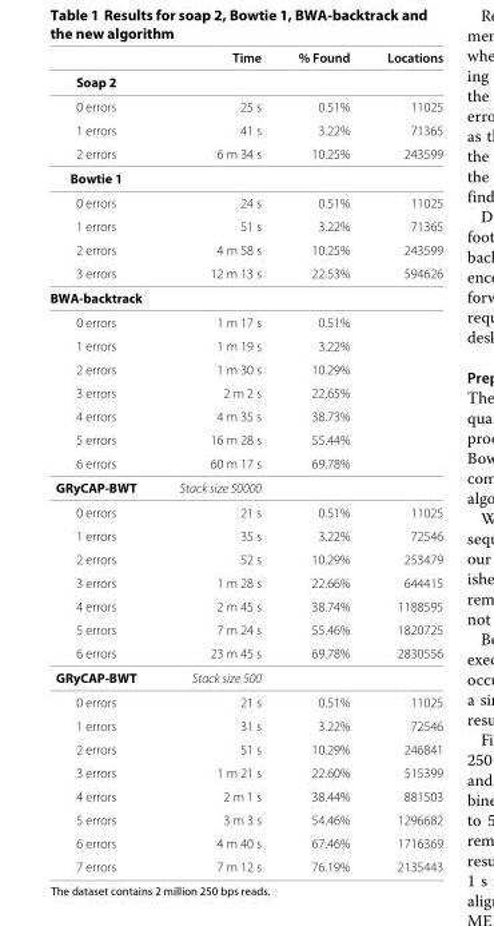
<table><thead><tr><td></td><td>Time</td><td>% Found</td><td>Locations</td></tr></thead><tbody><tr><td colspan="4">Soap 2</td></tr><tr><td>0 errors</td><td>25 s</td><td>0.51%</td><td>11025</td></tr><tr><td>1 errors</td><td>41 s</td><td>3.22%</td><td>71365</td></tr><tr><td>2 errors</td><td>6 m 34 s</td><td>10.25%</td><td>243599</td></tr><tr><td colspan="4">Bowtie 1</td></tr><tr><td>0 errors</td><td>24 s</td><td>0.51%</td><td>11025</td></tr><tr><td>1 errors</td><td>51 s</td><td>3.22%</td><td>71365</td></tr><tr><td>2 errors</td><td>4 m 58 s</td><td>10.25%</td><td>243599</td></tr><tr><td>3 errors</td><td>12 m 13 s</td><td>22.53%</td><td>594626</td></tr><tr><td colspan="4">BWA-backtrack</td></tr><tr><td>0 errors</td><td>1 m 17 s</td><td>0.51%</td><td></td></tr><tr><td>1 errors</td><td>1 m 19 s</td><td>3.22%</td><td></td></tr><tr><td>2 errors</td><td>1 m 30 s</td><td>10.29%</td><td></td></tr><tr><td>3 errors</td><td>2 m 2 s</td><td>22.65%</td><td></td></tr><tr><td>4 errors</td><td>4 m 35 s</td><td>38.73%</td><td></td></tr><tr><td>5 errors</td><td>16 m 28 s</td><td>55.44%</td><td></td></tr><tr><td>6 errors</td><td>60 m 17 s</td><td>69.78%</td><td></td></tr><tr><td>GRyCAP-BWT</td><td>Stack size 50000</td><td></td><td></td></tr><tr><td>0 errors</td><td>21 s</td><td>0.51%</td><td>11025</td></tr><tr><td>1 errors</td><td>35 s</td><td>3.22%</td><td>72546</td></tr><tr><td>2 errors</td><td>52 s</td><td>10.29%</td><td>253479</td></tr><tr><td>3 errors</td><td>1 m 28 s</td><td>22.66%</td><td>644415</td></tr><tr><td>4 errors</td><td>2 m 45 s</td><td>38.74%</td><td>1188595</td></tr><tr><td>5 errors</td><td>7 m 24 s</td><td>55.46%</td><td>1820725</td></tr><tr><td>6 errors</td><td>23 m 45 s</td><td>69.78%</td><td>2830556</td></tr><tr><td>GRyCAP-BWT</td><td>Stack size 500</td><td></td><td></td></tr><tr><td>0 errors</td><td>21 s</td><td>0.51%</td><td>11025</td></tr><tr><td>1 errors</td><td>31 s</td><td>3.22%</td><td>72546</td></tr><tr><td>2 errors</td><td>51 s</td><td>10.29%</td><td>246841</td></tr><tr><td>3 errors</td><td>1 m 21 s</td><td>22.60%</td><td>515399</td></tr><tr><td>4 errors</td><td>2 m 1 s</td><td>38.44%</td><td>881503</td></tr><tr><td>5 errors</td><td>3 m 3 s</td><td>54.46%</td><td>1296682</td></tr><tr><td>6 errors</td><td>4 m 40 s</td><td>67.46%</td><td>1716369</td></tr><tr><td>7 errors</td><td>7 m 12 s</td><td>76.19%</td><td>2135443</td></tr></tbody></table>